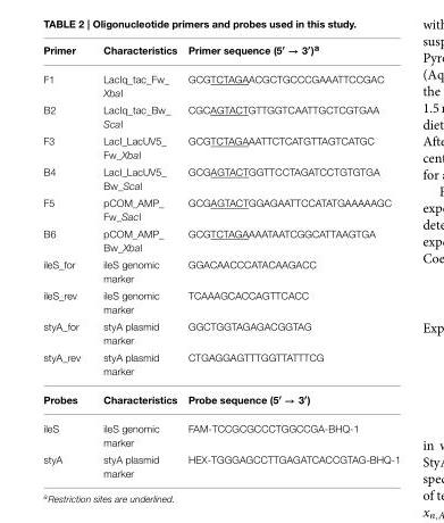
<table><thead><tr><td>Primer</td><td>Characteristics</td><td>Primer sequence (5<sup>′</sup> → 3<sup>′</sup>)<sup>a</sup></td></tr></thead><tbody><tr><td>F1</td><td>LacIq_tac_Fw_ XbaI</td><td>GCGTCTAGAACGCTGCCCGAAATTCCGAC</td></tr><tr><td>B2</td><td>LacIq_tac_Bw_ ScaI</td><td>CGCAGTACTGTTGGTCAATTGCTCGTGAA</td></tr><tr><td>F3</td><td>LacI_LacUV5_ Fw_XbaI</td><td>GCGTCTAGAAATTCTCATGTTAGTCATGC</td></tr><tr><td>B4</td><td>LacI_LacUV5_ Bw_ScaI</td><td>GCGAGTACTGGTTCCTAGATCCTGTGTGA</td></tr><tr><td>F5</td><td>pCOM_AMP_ Fw_SacI</td><td>GCGAGTACTGGAGAATTCCATATGAAAAAGC</td></tr><tr><td>B6</td><td>pCOM_AMP_ Bw_XbaI</td><td>GCGTCTAGAAAATAATCGGCATTAAGTGA</td></tr><tr><td>ileS_for</td><td>ileS genomic marker</td><td>GGACAACCCATACAAGACC</td></tr><tr><td>ileS_rev</td><td>ileS genomic marker</td><td>TCAAAGCACCAGTTCACC</td></tr><tr><td>styA_for</td><td>styA plasmid marker</td><td>GGCTGGTAGAGACGGTAG</td></tr><tr><td>styA_rev</td><td>styA plasmid marker</td><td>CTGAGGAGTTTGGTTATTTCG</td></tr><tr><td>Probes</td><td>Characteristics</td><td>Probe sequence (5′ → 3′)</td></tr><tr><td>ileS</td><td>ileS genomic marker</td><td>FAM-TCCGCGCCCTGGCCGA-BHQ-1</td></tr><tr><td>styA</td><td>styA plasmid marker</td><td>HEX-TGGGAGCCTTGAGATCACCGTAG-BHQ-1</td></tr></tbody></table>